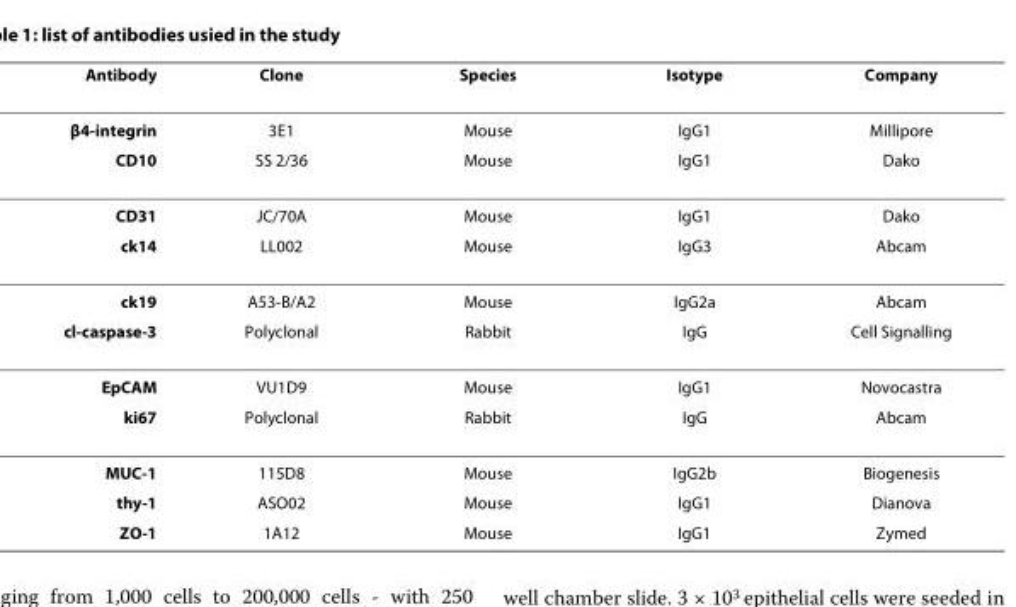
<table><thead><tr><td>Antibody</td><td>Clone</td><td>Species</td><td>Isotype</td><td>Company</td></tr></thead><tbody><tr><td>β4-integrin</td><td>3E1</td><td>Mouse</td><td>IgG1</td><td>Millipore</td></tr><tr><td>CD10</td><td>SS 2/36</td><td>Mouse</td><td>IgG1</td><td>Dako</td></tr><tr><td>CD31</td><td>JC/70A</td><td>Mouse</td><td>IgG1</td><td>Dako</td></tr><tr><td>ck14</td><td>LL002</td><td>Mouse</td><td>IgG3</td><td>Abcam</td></tr><tr><td>ck19</td><td>A53-B/A2</td><td>Mouse</td><td>IgG2a</td><td>Abcam</td></tr><tr><td>cl-caspase-3</td><td>Polyclonal</td><td>Rabbit</td><td>IgG</td><td>Cell Signalling</td></tr><tr><td>EpCAM</td><td>VU1D9</td><td>Mouse</td><td>IgG1</td><td>Novocastra</td></tr><tr><td>ki67</td><td>Polyclonal</td><td>Rabbit</td><td>IgG</td><td>Abcam</td></tr><tr><td>MUC-1</td><td>115D8</td><td>Mouse</td><td>IgG2b</td><td>Biogenesis</td></tr><tr><td>thy-1</td><td>ASO02</td><td>Mouse</td><td>IgG1</td><td>Dianova</td></tr><tr><td>ZO-1</td><td>1A12</td><td>Mouse</td><td>IgG1</td><td>Zymed</td></tr></tbody></table>